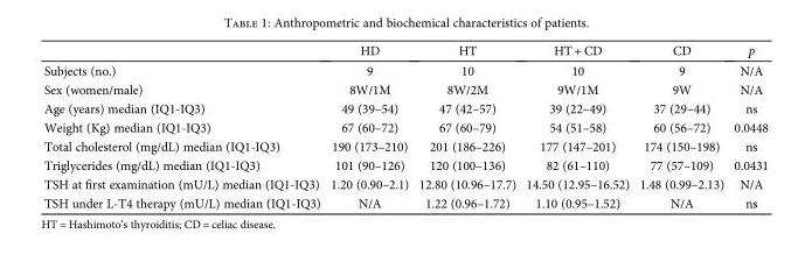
<table><thead><tr><td></td><td>HD</td><td>HT</td><td>HT + CD</td><td>CD</td><td>p</td></tr></thead><tbody><tr><td>Subjects (no.)</td><td>9</td><td>10</td><td>10</td><td>9</td><td>N/A</td></tr><tr><td>Sex (women/male)</td><td>8W/1M</td><td>8W/2M</td><td>9W/1M</td><td>9W</td><td>N/A</td></tr><tr><td>Age (years) median (IQ1-IQ3)</td><td>49 (39–54)</td><td>47 (42–57)</td><td>39 (22–49)</td><td>37 (29–44)</td><td>ns</td></tr><tr><td>Weight (Kg) median (IQ1-IQ3)</td><td>67 (60–72)</td><td>67 (60–79)</td><td>54 (51–58)</td><td>60 (56–72)</td><td>0.0448</td></tr><tr><td>Total cholesterol (mg/dL) median (IQ1-IQ3)</td><td>190 (173–210)</td><td>201 (186–226)</td><td>177 (147–201)</td><td>174 (150–198)</td><td>ns</td></tr><tr><td>Triglycerides (mg/dL) median (IQ1-IQ3)</td><td>101 (90–126)</td><td>120 (100–136)</td><td>82 (61–110)</td><td>77 (57–109)</td><td>0.0431</td></tr><tr><td>TSH at first examination (mU/L) median (IQ1-IQ3)</td><td>1.20 (0.90–2.1)</td><td>12.80 (10.96–17.7)</td><td>14.50 (12.95–16.52)</td><td>1.48 (0.99–2.13)</td><td>N/A</td></tr><tr><td>TSH under L-T4 therapy (mU/L) median (IQ1-IQ3)</td><td>N/A</td><td>1.22 (0.96–1.72)</td><td>1.10 (0.95–1.52)</td><td>N/A</td><td>ns</td></tr></tbody></table>